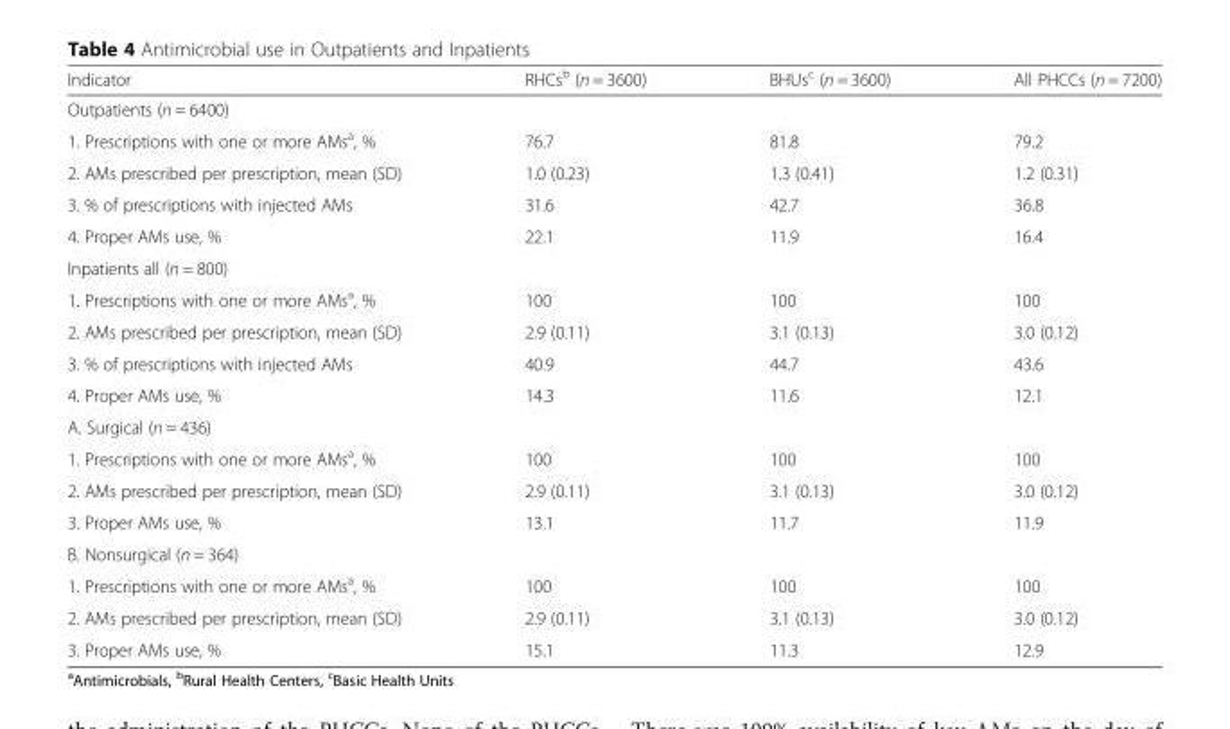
<table><thead><tr><td>Indicator</td><td>RHCs<sup>b</sup> (n = 3600)</td><td>BHUs<sup>c</sup> (n = 3600)</td><td>All PHCCs (n = 7200)</td></tr></thead><tbody><tr><td colspan="4">Outpatients (n = 6400)</td></tr><tr><td>1. Prescriptions with one or more AMs<sup>a</sup>, %</td><td>76.7</td><td>81.8</td><td>79.2</td></tr><tr><td>2. AMs prescribed per prescription, mean (SD)</td><td>1.0 (0.23)</td><td>1.3 (0.41)</td><td>1.2 (0.31)</td></tr><tr><td>3. % of prescriptions with injected AMs</td><td>31.6</td><td>42.7</td><td>36.8</td></tr><tr><td>4. Proper AMs use, %</td><td>22.1</td><td>11.9</td><td>16.4</td></tr><tr><td colspan="4">Inpatients all (n = 800)</td></tr><tr><td>1. Prescriptions with one or more AMs<sup>a</sup>, %</td><td>100</td><td>100</td><td>100</td></tr><tr><td>2. AMs prescribed per prescription, mean (SD)</td><td>2.9 (0.11)</td><td>3.1 (0.13)</td><td>3.0 (0.12)</td></tr><tr><td>3. % of prescriptions with injected AMs</td><td>40.9</td><td>44.7</td><td>43.6</td></tr><tr><td>4. Proper AMs use, %</td><td>14.3</td><td>11.6</td><td>12.1</td></tr><tr><td colspan="4">A. Surgical (n = 436)</td></tr><tr><td>1. Prescriptions with one or more AMs<sup>a</sup>, %</td><td>100</td><td>100</td><td>100</td></tr><tr><td>2. AMs prescribed per prescription, mean (SD)</td><td>2.9 (0.11)</td><td>3.1 (0.13)</td><td>3.0 (0.12)</td></tr><tr><td>3. Proper AMs use, %</td><td>13.1</td><td>11.7</td><td>11.9</td></tr><tr><td colspan="4">B. Nonsurgical (n = 364)</td></tr><tr><td>1. Prescriptions with one or more AMs<sup>a</sup>, %</td><td>100</td><td>100</td><td>100</td></tr><tr><td>2. AMs prescribed per prescription, mean (SD)</td><td>2.9 (0.11)</td><td>3.1 (0.13)</td><td>3.0 (0.12)</td></tr><tr><td>3. Proper AMs use, %</td><td>15.1</td><td>11.3</td><td>12.9</td></tr></tbody></table>